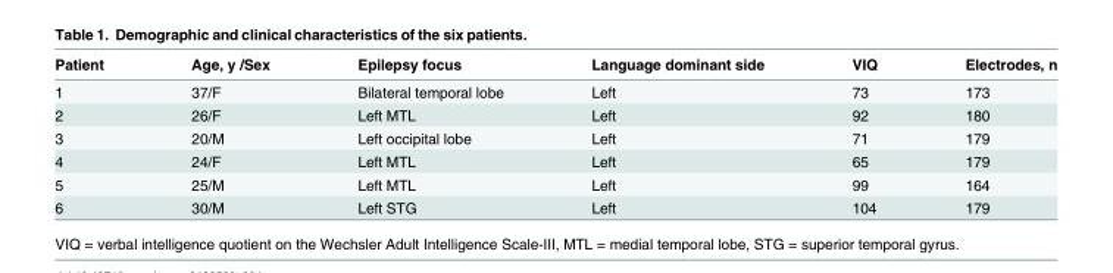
<table><thead><tr><td>Patient</td><td>Age, y /Sex</td><td>Epilepsy focus</td><td>Language dominant side</td><td>VIQ</td><td>Electrodes, n</td></tr></thead><tbody><tr><td>1</td><td>37/F</td><td>Bilateral temporal lobe</td><td>Left</td><td>73</td><td>173</td></tr><tr><td>2</td><td>26/F</td><td>Left MTL</td><td>Left</td><td>92</td><td>180</td></tr><tr><td>3</td><td>20/M</td><td>Left occipital lobe</td><td>Left</td><td>71</td><td>179</td></tr><tr><td>4</td><td>24/F</td><td>Left MTL</td><td>Left</td><td>65</td><td>179</td></tr><tr><td>5</td><td>25/M</td><td>Left MTL</td><td>Left</td><td>99</td><td>164</td></tr><tr><td>6</td><td>30/M</td><td>Left STG</td><td>Left</td><td>104</td><td>179</td></tr></tbody></table>